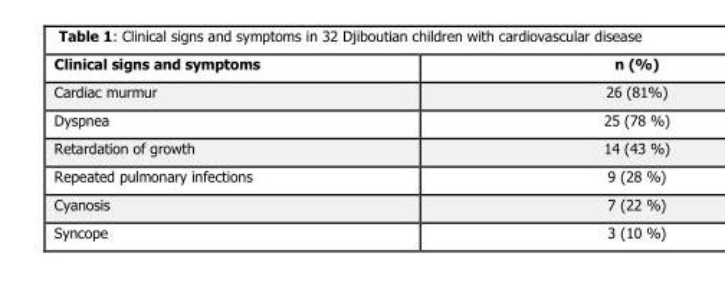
<table><thead><tr><td>Clinical signs and symptoms</td><td>n (%)</td></tr></thead><tbody><tr><td>Cardiac murmur</td><td>26 (81%)</td></tr><tr><td>Dyspnea</td><td>25 (78 %)</td></tr><tr><td>Retardation of growth</td><td>14 (43 %)</td></tr><tr><td>Repeated pulmonary infections</td><td>9 (28 %)</td></tr><tr><td>Cyanosis</td><td>7 (22 %)</td></tr><tr><td>Syncope</td><td>3 (10 %)</td></tr></tbody></table>